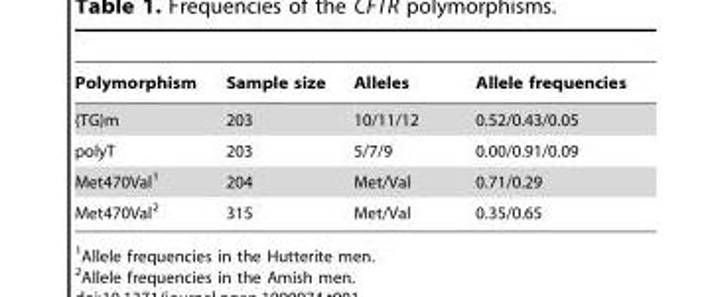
<table><thead><tr><td>Polymorphism</td><td>Sample size</td><td>Alleles</td><td>Allele frequencies</td></tr></thead><tbody><tr><td>(TG)m</td><td>203</td><td>10/11/12</td><td>0.52/0.43/0.05</td></tr><tr><td>polyT</td><td>203</td><td>5/7/9</td><td>0.00/0.91/0.09</td></tr><tr><td>Met470Val<sup>1</sup></td><td>204</td><td>Met/Val</td><td>0.71/0.29</td></tr><tr><td>Met470Val<sup>2</sup></td><td>315</td><td>Met/Val</td><td>0.35/0.65</td></tr></tbody></table>